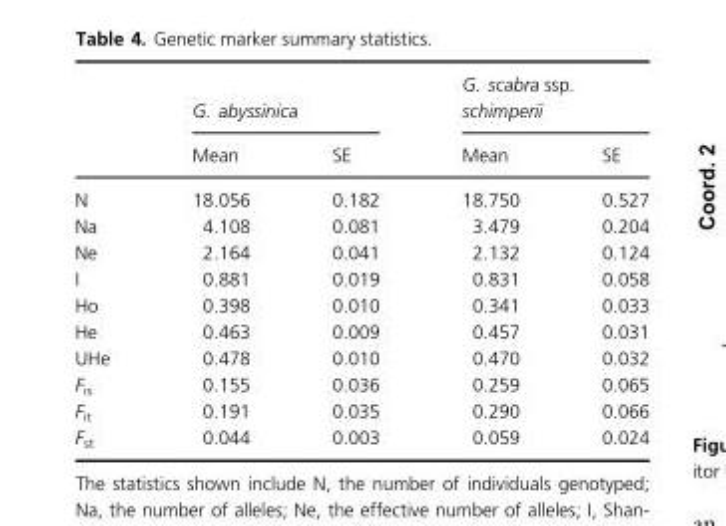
<table><thead><tr><td rowspan="2"></td><td colspan="2">G. abyssinica</td><td colspan="2">G. scabra ssp. schimperii</td></tr><tr><td>Mean</td><td>SE</td><td>Mean</td><td>SE</td></tr></thead><tbody><tr><td>N</td><td>18.056</td><td>0.182</td><td>18.750</td><td>0.527</td></tr><tr><td>Na</td><td>4.108</td><td>0.081</td><td>3.479</td><td>0.204</td></tr><tr><td>Ne</td><td>2.164</td><td>0.041</td><td>2.132</td><td>0.124</td></tr><tr><td>I</td><td>0.881</td><td>0.019</td><td>0.831</td><td>0.058</td></tr><tr><td>Ho</td><td>0.398</td><td>0.010</td><td>0.341</td><td>0.033</td></tr><tr><td>He</td><td>0.463</td><td>0.009</td><td>0.457</td><td>0.031</td></tr><tr><td>UHe</td><td>0.478</td><td>0.010</td><td>0.470</td><td>0.032</td></tr><tr><td>F<sub>is</sub></td><td>0.155</td><td>0.036</td><td>0.259</td><td>0.065</td></tr><tr><td>F<sub>it</sub></td><td>0.191</td><td>0.035</td><td>0.290</td><td>0.066</td></tr><tr><td>F<sub>st</sub></td><td>0.044</td><td>0.003</td><td>0.059</td><td>0.024</td></tr></tbody></table>